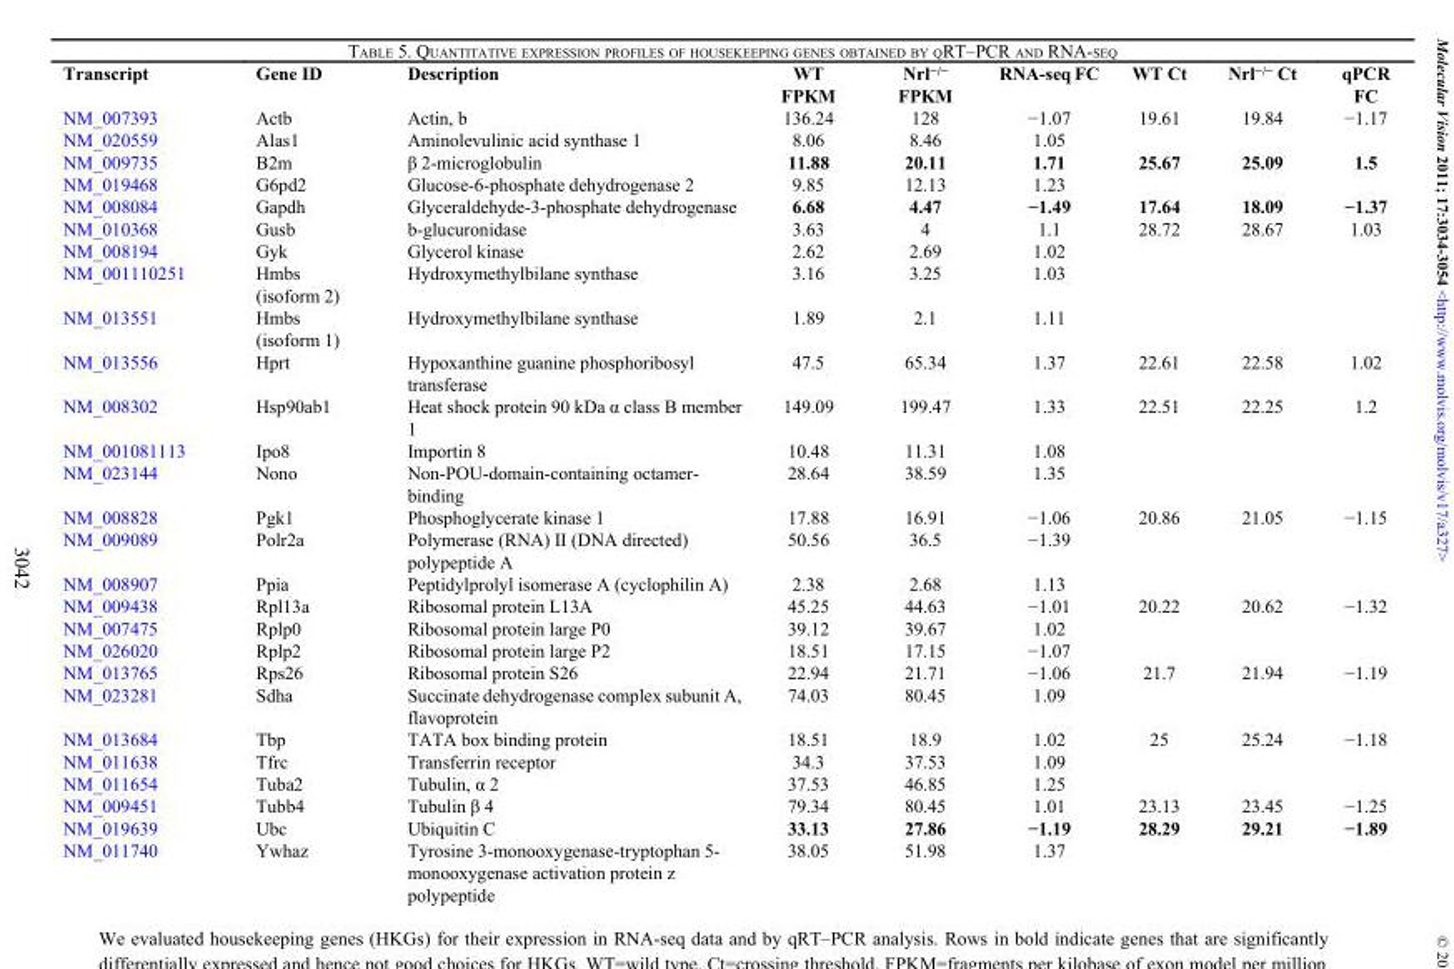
<table><thead><tr><td>Transcript</td><td>Gene ID</td><td>Description</td><td>WT FPKM</td><td>Nrl<sup>−/−</sup> FPKM</td><td>RNA-seq FC</td><td>WT Ct</td><td>Nrl<sup>−/−</sup> Ct</td><td>qPCR FC</td></tr></thead><tbody><tr><td>NM_007393</td><td>Actb</td><td>Actin, b</td><td>136.24</td><td>128</td><td>−1.07</td><td>19.61</td><td>19.84</td><td>−1.17</td></tr><tr><td>NM_020559</td><td>Alas1</td><td>Aminolevulinic acid synthase 1</td><td>8.06</td><td>8.46</td><td>1.05</td><td></td><td></td><td></td></tr><tr><td>NM_009735</td><td>B2m</td><td>β 2-microglobulin</td><td>11.88</td><td>20.11</td><td>1.71</td><td>25.67</td><td>25.09</td><td>1.5</td></tr><tr><td>NM_019468</td><td>G6pd2</td><td>Glucose-6-phosphate dehydrogenase 2</td><td>9.85</td><td>12.13</td><td>1.23</td><td></td><td></td><td></td></tr><tr><td>NM_008084</td><td>Gapdh</td><td>Glyceraldehyde-3-phosphate dehydrogenase</td><td>6.68</td><td>4.47</td><td>−1.49</td><td>17.64</td><td>18.09</td><td>−1.37</td></tr><tr><td>NM_010368</td><td>Gusb</td><td>b-glucuronidase</td><td>3.63</td><td>4</td><td>1.1</td><td>28.72</td><td>28.67</td><td>1.03</td></tr><tr><td>NM_008194</td><td>Gyk</td><td>Glycerol kinase</td><td>2.62</td><td>2.69</td><td>1.02</td><td></td><td></td><td></td></tr><tr><td>NM_001110251</td><td>Hmbs (isoform 2)</td><td>Hydroxymethylbilane synthase</td><td>3.16</td><td>3.25</td><td>1.03</td><td></td><td></td><td></td></tr><tr><td>NM_013551</td><td>Hmbs (isoform 1)</td><td>Hydroxymethylbilane synthase</td><td>1.89</td><td>2.1</td><td>1.11</td><td></td><td></td><td></td></tr><tr><td>NM_013556</td><td>Hprt</td><td>Hypoxanthine guanine phosphoribosyl transferase</td><td>47.5</td><td>65.34</td><td>1.37</td><td>22.61</td><td>22.58</td><td>1.02</td></tr><tr><td>NM_008302</td><td>Hsp90ab1</td><td>Heat shock protein 90 kDa α class B member 1</td><td>149.09</td><td>199.47</td><td>1.33</td><td>22.51</td><td>22.25</td><td>1.2</td></tr><tr><td>NM_001081113</td><td>Ipo8</td><td>Importin 8</td><td>10.48</td><td>11.31</td><td>1.08</td><td></td><td></td><td></td></tr><tr><td>NM_023144</td><td>Nono</td><td>Non-POU-domain-containing octamer- binding</td><td>28.64</td><td>38.59</td><td>1.35</td><td></td><td></td><td></td></tr><tr><td>NM_008828</td><td>Pgk1</td><td>Phosphoglycerate kinase 1</td><td>17.88</td><td>16.91</td><td>−1.06</td><td>20.86</td><td>21.05</td><td>−1.15</td></tr><tr><td>NM_009089</td><td>Polr2a</td><td>Polymerase (RNA) II (DNA directed) polypeptide A</td><td>50.56</td><td>36.5</td><td>−1.39</td><td></td><td></td><td></td></tr><tr><td>NM_008907</td><td>Ppia</td><td>Peptidylprolyl isomerase A (cyclophilin A)</td><td>2.38</td><td>2.68</td><td>1.13</td><td></td><td></td><td></td></tr><tr><td>NM_009438</td><td>Rpl13a</td><td>Ribosomal protein L13A</td><td>45.25</td><td>44.63</td><td>−1.01</td><td>20.22</td><td>20.62</td><td>−1.32</td></tr><tr><td>NM_007475</td><td>Rplp0</td><td>Ribosomal protein large P0</td><td>39.12</td><td>39.67</td><td>1.02</td><td></td><td></td><td></td></tr><tr><td>NM_026020</td><td>Rplp2</td><td>Ribosomal protein large P2</td><td>18.51</td><td>17.15</td><td>−1.07</td><td></td><td></td><td></td></tr><tr><td>NM_013765</td><td>Rps26</td><td>Ribosomal protein S26</td><td>22.94</td><td>21.71</td><td>−1.06</td><td>21.7</td><td>21.94</td><td>−1.19</td></tr><tr><td>NM_023281</td><td>Sdha</td><td>Succinate dehydrogenase complex subunit A, flavoprotein</td><td>74.03</td><td>80.45</td><td>1.09</td><td></td><td></td><td></td></tr><tr><td>NM_013684</td><td>Tbp</td><td>TATA box binding protein</td><td>18.51</td><td>18.9</td><td>1.02</td><td>25</td><td>25.24</td><td>−1.18</td></tr><tr><td>NM_011638</td><td>Tfrc</td><td>Transferrin receptor</td><td>34.3</td><td>37.53</td><td>1.09</td><td></td><td></td><td></td></tr><tr><td>NM_011654</td><td>Tuba2</td><td>Tubulin, α 2</td><td>37.53</td><td>46.85</td><td>1.25</td><td></td><td></td><td></td></tr><tr><td>NM_009451</td><td>Tubb4</td><td>Tubulin β 4</td><td>79.34</td><td>80.45</td><td>1.01</td><td>23.13</td><td>23.45</td><td>−1.25</td></tr><tr><td>NM_019639</td><td>Ubc</td><td>Ubiquitin C</td><td>33.13</td><td>27.86</td><td>−1.19</td><td>28.29</td><td>29.21</td><td>−1.89</td></tr><tr><td>NM_011740</td><td>Ywhaz</td><td>Tyrosine 3-monooxygenase-tryptophan 5- monooxygenase activation protein z polypeptide</td><td>38.05</td><td>51.98</td><td>1.37</td><td></td><td></td><td></td></tr></tbody></table>